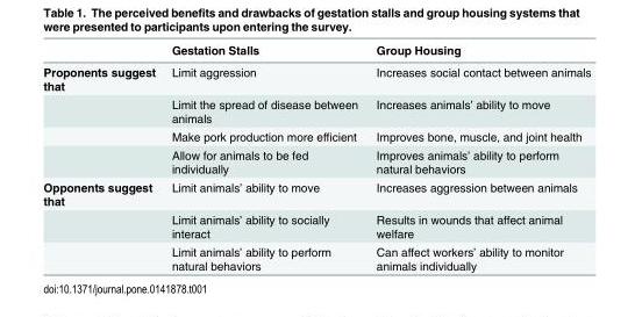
<table><thead><tr><td></td><td>Gestation Stalls</td><td>Group Housing</td></tr></thead><tbody><tr><td rowspan="4">Proponents suggest that</td><td>Limit aggression</td><td>Increases social contact between animals</td></tr><tr><td>Limit the spread of disease between animals</td><td>Increases animals’ ability to move</td></tr><tr><td>Make pork production more efficient</td><td>Improves bone, muscle, and joint health</td></tr><tr><td>Allow for animals to be fed individually</td><td>Improves animals’ ability to perform natural behaviors</td></tr><tr><td rowspan="3">Opponents suggest that</td><td>Limit animals’ ability to move</td><td>Increases aggression between animals</td></tr><tr><td>Limit animals’ ability to socially interact</td><td>Results in wounds that affect animal welfare</td></tr><tr><td>Limit animals’ ability to perform natural behaviors</td><td>Can affect workers’ ability to monitor animals individually</td></tr></tbody></table>